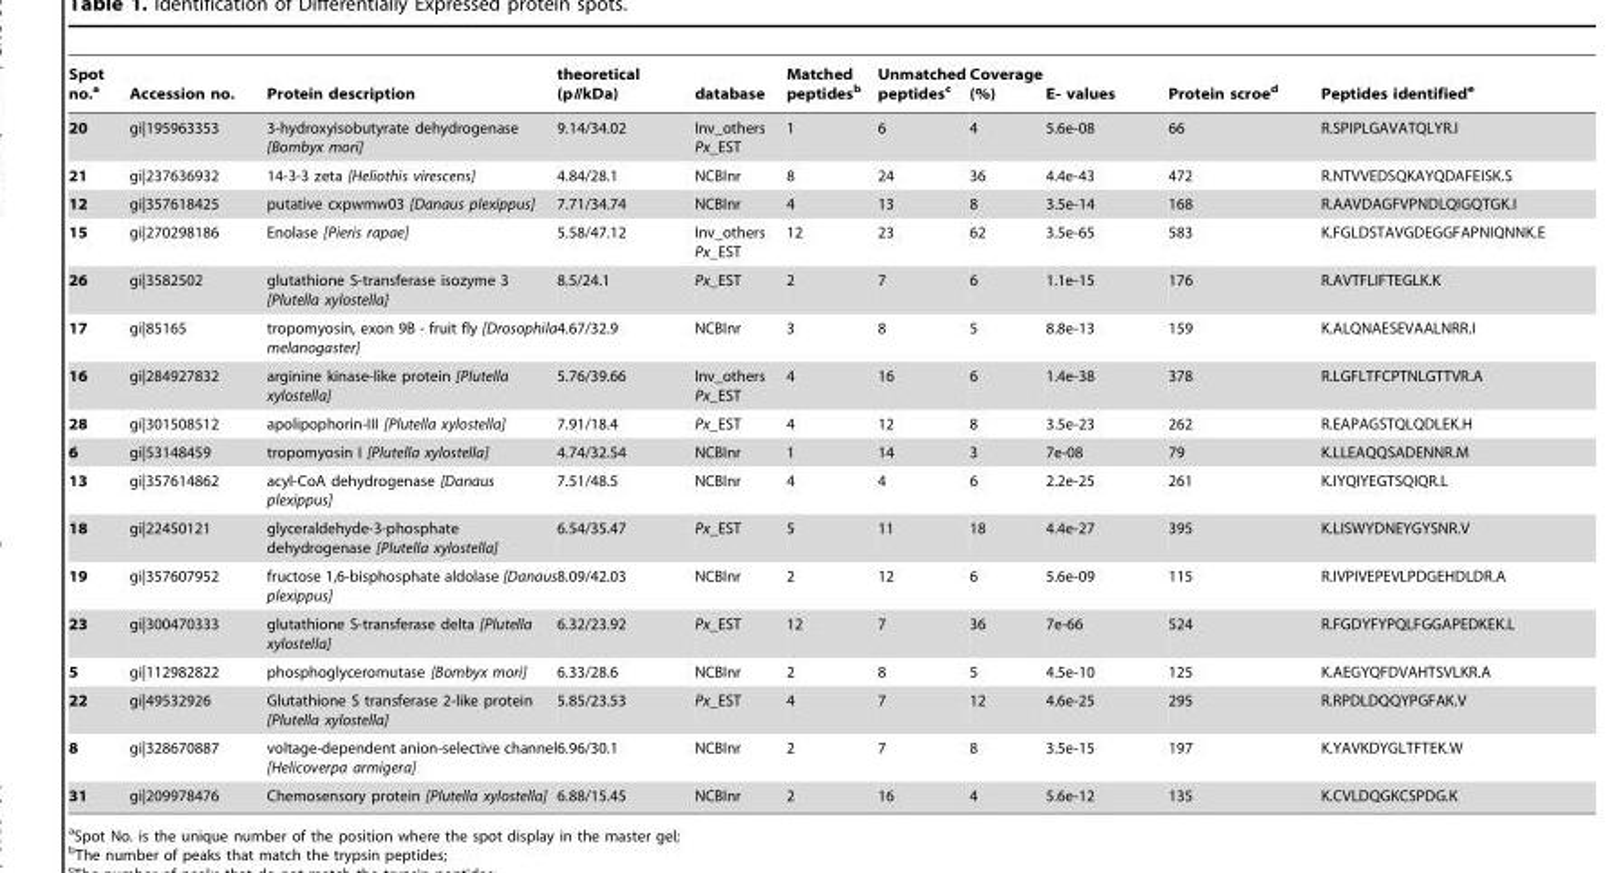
<table><thead><tr><td>Spot no.<sup>a</sup></td><td>Accession no.</td><td>Protein description</td><td>theoretical (pI/kDa)</td><td>database</td><td>Matched peptides<sup>b</sup></td><td>Unmatched peptides<sup>c</sup></td><td>Coverage (%)</td><td>E- values</td><td>Protein scroe<sup>d</sup></td><td>Peptides identified<sup>e</sup></td></tr></thead><tbody><tr><td>20</td><td>gi|195963353</td><td>3-hydroxyisobutyrate dehydrogenase [Bombyx mori]</td><td>9.14/34.02</td><td>Inv_others Px_EST</td><td>1</td><td>6</td><td>4</td><td>5.6e-08</td><td>66</td><td>R.SPIPLGAVATQLYR.I</td></tr><tr><td>21</td><td>gi|237636932</td><td>14-3-3 zeta [Heliothis virescens]</td><td>4.84/28.1</td><td>NCBInr</td><td>8</td><td>24</td><td>36</td><td>4.4e-43</td><td>472</td><td>R.NTVVEDSQKAYQDAFEISK.S</td></tr><tr><td>12</td><td>gi|357618425</td><td>putative cxpwmw03 [Danaus plexippus]</td><td>7.71/34.74</td><td>NCBInr</td><td>4</td><td>13</td><td>8</td><td>3.5e-14</td><td>168</td><td>R.AAVDAGFVPNDLQIGQTGK.I</td></tr><tr><td>15</td><td>gi|270298186</td><td>Enolase [Pieris rapae]</td><td>5.58/47.12</td><td>Inv_others Px_EST</td><td>12</td><td>23</td><td>62</td><td>3.5e-65</td><td>583</td><td>K.FGLDSTAVGDEGGFAPNIQNNK.E</td></tr><tr><td>26</td><td>gi|3582502</td><td>glutathione S-transferase isozyme 3 [Plutella xylostella]</td><td>8.5/24.1</td><td>Px_EST</td><td>2</td><td>7</td><td>6</td><td>1.1e-15</td><td>176</td><td>R.AVTFLIFTEGLK.K</td></tr><tr><td>17</td><td>gi|85165</td><td>tropomyosin, exon 9B - fruit fly [Drosophila melanogaster]</td><td>4.67/32.9</td><td>NCBInr</td><td>3</td><td>8</td><td>5</td><td>8.8e-13</td><td>159</td><td>K.ALQNAESEVAALNRR.I</td></tr><tr><td>16</td><td>gi|284927832</td><td>arginine kinase-like protein [Plutella xylostella]</td><td>5.76/39.66</td><td>Inv_others Px_EST</td><td>4</td><td>16</td><td>6</td><td>1.4e-38</td><td>378</td><td>R.LGFLTFCPTNLGTTVR.A</td></tr><tr><td>28</td><td>gi|301508512</td><td>apolipophorin-III [Plutella xylostella]</td><td>7.91/18.4</td><td>Px_EST</td><td>4</td><td>12</td><td>8</td><td>3.5e-23</td><td>262</td><td>R.EAPAGSTQLQDLEK.H</td></tr><tr><td>6</td><td>gi|53148459</td><td>tropomyosin I [Plutella xylostella]</td><td>4.74/32.54</td><td>NCBInr</td><td>1</td><td>14</td><td>3</td><td>7e-08</td><td>79</td><td>K.LLEAQQSADENNR.M</td></tr><tr><td>13</td><td>gi|357614862</td><td>acyl-CoA dehydrogenase [Danaus plexippus]</td><td>7.51/48.5</td><td>NCBInr</td><td>4</td><td>4</td><td>6</td><td>2.2e-25</td><td>261</td><td>K.IYQIYEGTSQIQR.L</td></tr><tr><td>18</td><td>gi|22450121</td><td>glyceraldehyde-3-phosphate dehydrogenase [Plutella xylostella]</td><td>6.54/35.47</td><td>Px_EST</td><td>5</td><td>11</td><td>18</td><td>4.4e-27</td><td>395</td><td>K.LISWYDNEYGYSNR.V</td></tr><tr><td>19</td><td>gi|357607952</td><td>fructose 1,6-bisphosphate aldolase [Danaus plexippus]</td><td>8.09/42.03</td><td>NCBInr</td><td>2</td><td>12</td><td>6</td><td>5.6e-09</td><td>115</td><td>R.IVPIVEPEVLPDGEHDLDR.A</td></tr><tr><td>23</td><td>gi|300470333</td><td>glutathione S-transferase delta [Plutella xylostella]</td><td>6.32/23.92</td><td>Px_EST</td><td>12</td><td>7</td><td>36</td><td>7e-66</td><td>524</td><td>R.FGDYFYPQLFGGAPEDKEK.L</td></tr><tr><td>5</td><td>gi|112982822</td><td>phosphoglyceromutase [Bombyx mori]</td><td>6.33/28.6</td><td>NCBInr</td><td>2</td><td>8</td><td>5</td><td>4.5e-10</td><td>125</td><td>K.AEGYQFDVAHTSVLKR.A</td></tr><tr><td>22</td><td>gi|49532926</td><td>Glutathione S transferase 2-like protein [Plutella xylostella]</td><td>5.85/23.53</td><td>Px_EST</td><td>4</td><td>7</td><td>12</td><td>4.6e-25</td><td>295</td><td>R.RPDLDQQYPGFAK.V</td></tr><tr><td>8</td><td>gi|328670887</td><td>voltage-dependent anion-selective channel [Helicoverpa armigera]</td><td>6.96/30.1</td><td>NCBInr</td><td>2</td><td>7</td><td>8</td><td>3.5e-15</td><td>197</td><td>K.YAVKDYGLTFTEK.W</td></tr><tr><td>31</td><td>gi|209978476</td><td>Chemosensory protein [Plutella xylostella]</td><td>6.88/15.45</td><td>NCBInr</td><td>2</td><td>16</td><td>4</td><td>5.6e-12</td><td>135</td><td>K.CVLDQGKCSPDG.K</td></tr></tbody></table>